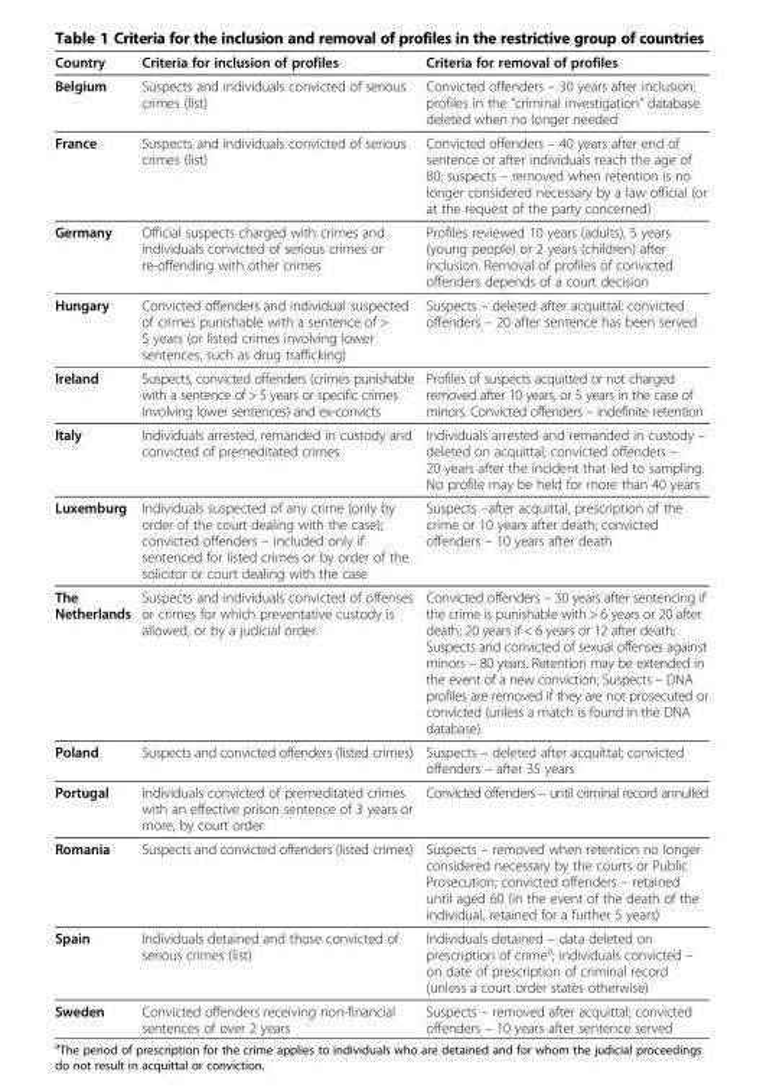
<table><thead><tr><td>Country</td><td>Criteria for inclusion of profiles</td><td>Criteria for removal of profiles</td></tr></thead><tbody><tr><td>Belgium</td><td>Suspects and individuals convicted of serious crimes (list)</td><td>Convicted offenders – 30 years after inclusion; profiles in the &quot;criminal investigation&quot; database deleted when no longer needed</td></tr><tr><td>France</td><td>Suspects and individuals convicted of serious crimes (list)</td><td>Convicted offenders – 40 years after end of sentence or after individuals reach the age of 80; suspects – removed when retention is no longer considered necessary by a law official (or at the request of the party concerned)</td></tr><tr><td>Germany</td><td>Official suspects charged with crimes and individuals convicted of serious crimes or re-offending with other crimes</td><td>Profiles reviewed 10 years (adults), 5 years (young people) or 2 years (children) after inclusion. Removal of profiles of convicted offenders depends of a court decision</td></tr><tr><td>Hungary</td><td>Convicted offenders and individual suspected of crimes punishable with a sentence of &gt; 5 years (or listed crimes involving lower sentences, such as drug trafficking)</td><td>Suspects – deleted after acquittal; convicted offenders – 20 after sentence has been served</td></tr><tr><td>Ireland</td><td>Suspects, convicted offenders (crimes punishable with a sentence of &gt; 5 years or specific crimes involving lower sentences) and ex-convicts</td><td>Profiles of suspects acquitted or not charged removed after 10 years, or 5 years in the case of minors. Convicted offenders – indefinite retention</td></tr><tr><td>Italy</td><td>Individuals arrested, remanded in custody and convicted of premeditated crimes</td><td>Individuals arrested and remanded in custody – deleted on acquittal; convicted offenders – 20 years after the incident that led to sampling. No profile may be held for more than 40 years</td></tr><tr><td>Luxemburg</td><td>Individuals suspected of any crime (only by order of the court dealing with the case); convicted offenders – included only if sentenced for listed crimes or by order of the solicitor or court dealing with the case</td><td>Suspects –after acquittal, prescription of the crime or 10 years after death; convicted offenders – 10 years after death</td></tr><tr><td>The Netherlands</td><td>Suspects and individuals convicted of offenses or crimes for which preventative custody is allowed, or by a judicial order.</td><td>Convicted offenders – 30 years after sentencing if the crime is punishable with &gt; 6 years or 20 after death; 20 years if &lt; 6 years or 12 after death; Suspects and convicted of sexual offenses against minors – 80 years. Retention may be extended in the event of a new conviction; Suspects – DNA profiles are removed if they are not prosecuted or convicted (unless a match is found in the DNA database).</td></tr><tr><td>Poland</td><td>Suspects and convicted offenders (listed crimes)</td><td>Suspects – deleted after acquittal; convicted offenders – after 35 years</td></tr><tr><td>Portugal</td><td>Individuals convicted of premeditated crimes with an effective prison sentence of 3 years or more, by court order</td><td>Convicted offenders – until criminal record annulled</td></tr><tr><td>Romania</td><td>Suspects and convicted offenders (listed crimes)</td><td>Suspects – removed when retention no longer considered necessary by the courts or Public Prosecution; convicted offenders – retained until aged 60 (in the event of the death of the individual, retained for a further 5 years)</td></tr><tr><td>Spain</td><td>Individuals detained and those convicted of serious crimes (list)</td><td>Individuals detained – data deleted on prescription of crime<sup>a</sup>; individuals convicted – on date of prescription of criminal record (unless a court order states otherwise)</td></tr><tr><td>Sweden</td><td>Convicted offenders receiving non-financial sentences of over 2 years</td><td>Suspects – removed after acquittal; convicted offenders – 10 years after sentence served</td></tr></tbody></table>